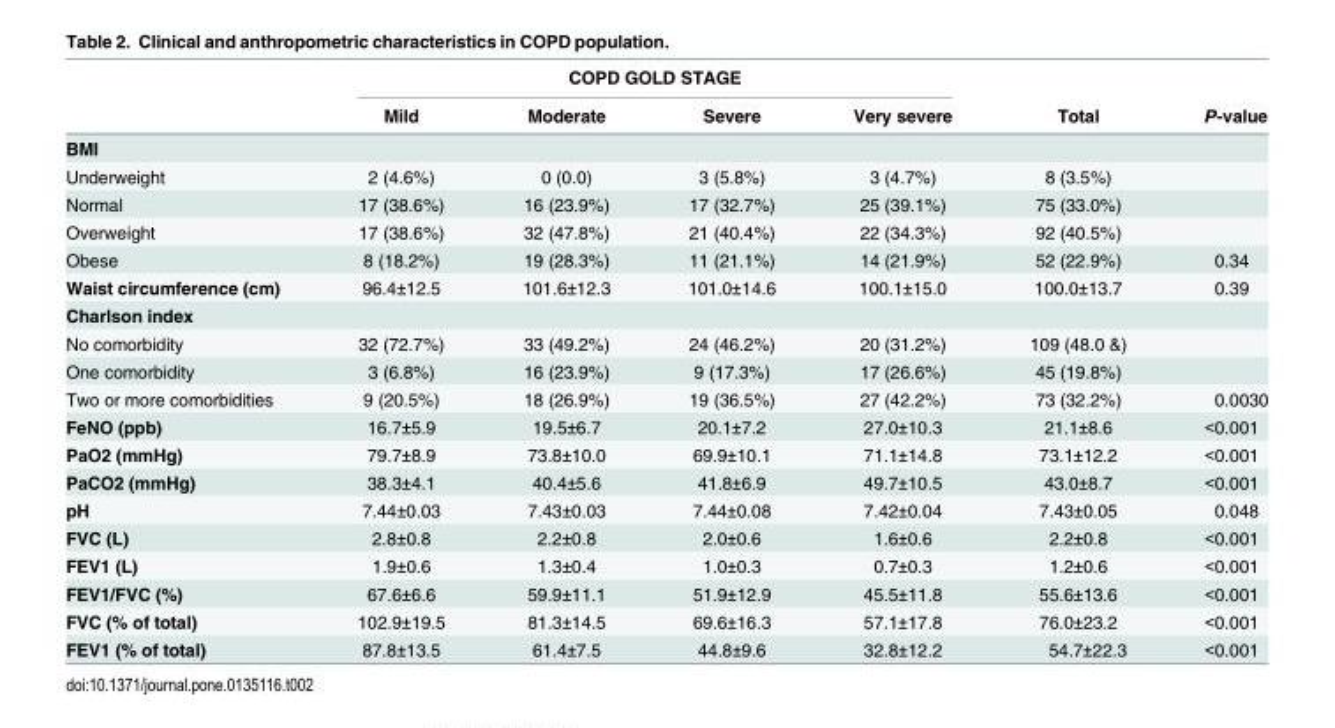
<table><thead><tr><td rowspan="2"></td><td colspan="4">COPD GOLD STAGE</td><td rowspan="2">Total</td><td rowspan="2">P-value</td></tr><tr><td>Mild</td><td>Moderate</td><td>Severe</td><td>Very severe</td></tr></thead><tbody><tr><td colspan="7">BMI</td></tr><tr><td>Underweight</td><td>2 (4.6%)</td><td>0 (0.0)</td><td>3 (5.8%)</td><td>3 (4.7%)</td><td>8 (3.5%)</td><td></td></tr><tr><td>Normal</td><td>17 (38.6%)</td><td>16 (23.9%)</td><td>17 (32.7%)</td><td>25 (39.1%)</td><td>75 (33.0%)</td><td></td></tr><tr><td>Overweight</td><td>17 (38.6%)</td><td>32 (47.8%)</td><td>21 (40.4%)</td><td>22 (34.3%)</td><td>92 (40.5%)</td><td></td></tr><tr><td>Obese</td><td>8 (18.2%)</td><td>19 (28.3%)</td><td>11 (21.1%)</td><td>14 (21.9%)</td><td>52 (22.9%)</td><td>0.34</td></tr><tr><td>Waist circumference (cm)</td><td>96.4±12.5</td><td>101.6±12.3</td><td>101.0±14.6</td><td>100.1±15.0</td><td>100.0±13.7</td><td>0.39</td></tr><tr><td colspan="7">Charlson index</td></tr><tr><td>No comorbidity</td><td>32 (72.7%)</td><td>33 (49.2%)</td><td>24 (46.2%)</td><td>20 (31.2%)</td><td>109 (48.0 &amp;)</td><td></td></tr><tr><td>One comorbidity</td><td>3 (6.8%)</td><td>16 (23.9%)</td><td>9 (17.3%)</td><td>17 (26.6%)</td><td>45 (19.8%)</td><td></td></tr><tr><td>Two or more comorbidities</td><td>9 (20.5%)</td><td>18 (26.9%)</td><td>19 (36.5%)</td><td>27 (42.2%)</td><td>73 (32.2%)</td><td>0.0030</td></tr><tr><td>FeNO (ppb)</td><td>16.7±5.9</td><td>19.5±6.7</td><td>20.1±7.2</td><td>27.0±10.3</td><td>21.1±8.6</td><td>&lt;0.001</td></tr><tr><td>PaO2 (mmHg)</td><td>79.7±8.9</td><td>73.8±10.0</td><td>69.9±10.1</td><td>71.1±14.8</td><td>73.1±12.2</td><td>&lt;0.001</td></tr><tr><td>PaCO2 (mmHg)</td><td>38.3±4.1</td><td>40.4±5.6</td><td>41.8±6.9</td><td>49.7±10.5</td><td>43.0±8.7</td><td>&lt;0.001</td></tr><tr><td>pH</td><td>7.44±0.03</td><td>7.43±0.03</td><td>7.44±0.08</td><td>7.42±0.04</td><td>7.43±0.05</td><td>0.048</td></tr><tr><td>FVC (L)</td><td>2.8±0.8</td><td>2.2±0.8</td><td>2.0±0.6</td><td>1.6±0.6</td><td>2.2±0.8</td><td>&lt;0.001</td></tr><tr><td>FEV1 (L)</td><td>1.9±0.6</td><td>1.3±0.4</td><td>1.0±0.3</td><td>0.7±0.3</td><td>1.2±0.6</td><td>&lt;0.001</td></tr><tr><td>FEV1/FVC (%)</td><td>67.6±6.6</td><td>59.9±11.1</td><td>51.9±12.9</td><td>45.5±11.8</td><td>55.6±13.6</td><td>&lt;0.001</td></tr><tr><td>FVC (% of total)</td><td>102.9±19.5</td><td>81.3±14.5</td><td>69.6±16.3</td><td>57.1±17.8</td><td>76.0±23.2</td><td>&lt;0.001</td></tr><tr><td>FEV1 (% of total)</td><td>87.8±13.5</td><td>61.4±7.5</td><td>44.8±9.6</td><td>32.8±12.2</td><td>54.7±22.3</td><td>&lt;0.001</td></tr></tbody></table>